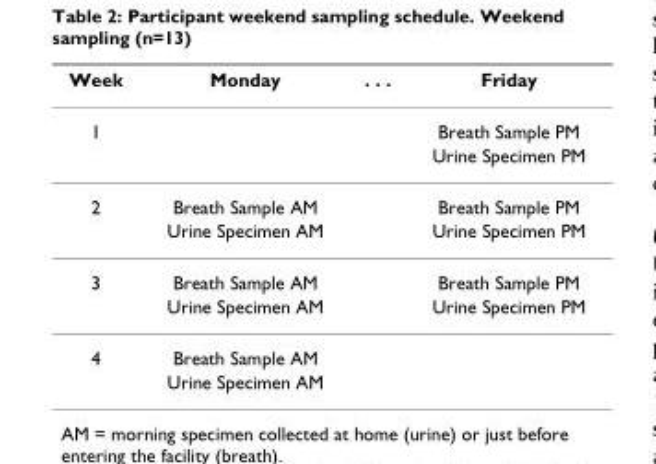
<table><thead><tr><td>Week</td><td>Monday</td><td>. . .</td><td>Friday</td></tr></thead><tbody><tr><td rowspan="2">1</td><td></td><td></td><td>Breath Sample PM</td></tr><tr><td></td><td></td><td>Urine Specimen PM</td></tr><tr><td rowspan="2">2</td><td>Breath Sample AM</td><td></td><td>Breath Sample PM</td></tr><tr><td>Urine Specimen AM</td><td></td><td>Urine Specimen PM</td></tr><tr><td rowspan="2">3</td><td>Breath Sample AM</td><td></td><td>Breath Sample PM</td></tr><tr><td>Urine Specimen AM</td><td></td><td>Urine Specimen PM</td></tr><tr><td rowspan="2">4</td><td>Breath Sample AM</td><td></td><td></td></tr><tr><td>Urine Specimen AM</td><td></td><td></td></tr></tbody></table>